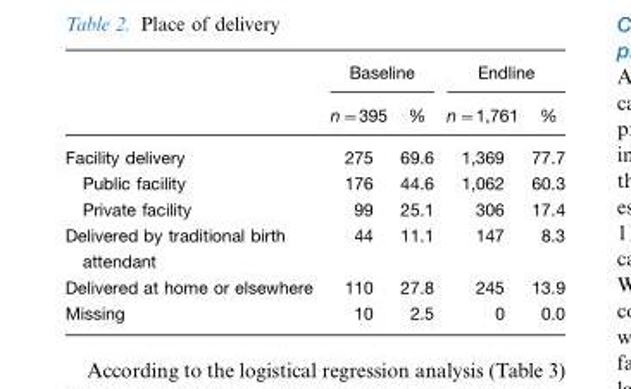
<table><thead><tr><td rowspan="2"></td><td colspan="2">Baseline</td><td colspan="2">Endline</td></tr><tr><td>n=395</td><td>%</td><td>n=1,761</td><td>%</td></tr></thead><tbody><tr><td>Facility delivery</td><td>275</td><td>69.6</td><td>1,369</td><td>77.7</td></tr><tr><td>Public facility</td><td>176</td><td>44.6</td><td>1,062</td><td>60.3</td></tr><tr><td>Private facility</td><td>99</td><td>25.1</td><td>306</td><td>17.4</td></tr><tr><td>Delivered by traditional birth attendant</td><td>44</td><td>11.1</td><td>147</td><td>8.3</td></tr><tr><td>Delivered at home or elsewhere</td><td>110</td><td>27.8</td><td>245</td><td>13.9</td></tr><tr><td>Missing</td><td>10</td><td>2.5</td><td>0</td><td>0.0</td></tr></tbody></table>